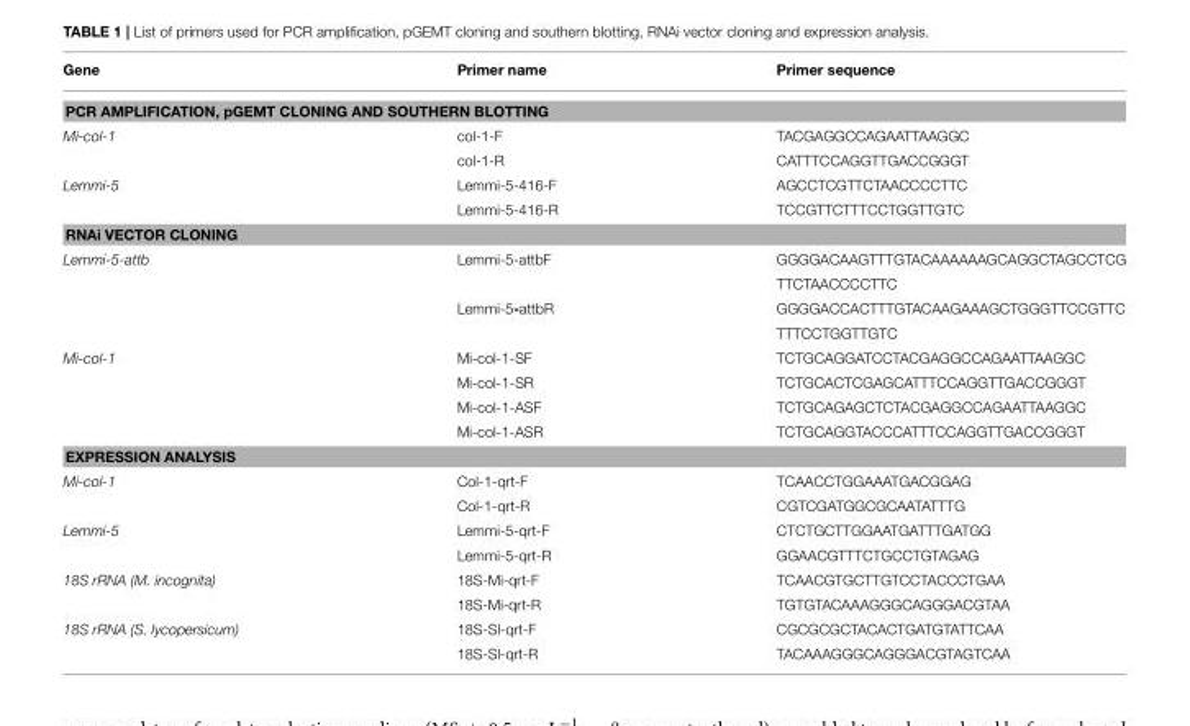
<table><thead><tr><td>Gene</td><td>Primer name</td><td>Primer sequence</td></tr></thead><tbody><tr><td colspan="3">PCR AMPLIFICATION, pGEMT CLONING AND SOUTHERN BLOTTING</td></tr><tr><td rowspan="2">Mi-col-1</td><td>col-1-F</td><td>TACGAGGCCAGAATTAAGGC</td></tr><tr><td>col-1-R</td><td>CATTTCCAGGTTGACCGGGT</td></tr><tr><td rowspan="2">Lemmi-5</td><td>Lemmi-5-416-F</td><td>AGCCTCGTTCTAACCCCTTC</td></tr><tr><td>Lemmi-5-416-R</td><td>TCCGTTCTTTCCTGGTTGTC</td></tr><tr><td colspan="3">RNAi VECTOR CLONING</td></tr><tr><td rowspan="4">Lemmi-5-attb</td><td>Lemmi-5-attbF</td><td>GGGGACAAGTTTGTACAAAAAAGCAGGCTAGCCTCG</td></tr><tr><td></td><td>TTCTAACCCCTTC</td></tr><tr><td>Lemmi-5-attbR</td><td>GGGGACCACTTTGTACAAGAAAGCTGGGTTCCGTTC</td></tr><tr><td></td><td>TTTCCTGGTTGTC</td></tr><tr><td rowspan="4">Mi-col-1</td><td>Mi-col-1-SF</td><td>TCTGCAGGATCCTACGAGGCCAGAATTAAGGC</td></tr><tr><td>Mi-col-1-SR</td><td>TCTGCACTCGAGCATTTCCAGGTTGACCGGGT</td></tr><tr><td>Mi-col-1-ASF</td><td>TCTGCAGAGCTCTACGAGGCCAGAATTAAGGC</td></tr><tr><td>Mi-col-1-ASR</td><td>TCTGCAGGTACCCATTTCCAGGTTGACCGGGT</td></tr><tr><td colspan="3">EXPRESSION ANALYSIS</td></tr><tr><td rowspan="2">Mi-col-1</td><td>Col-1-qrt-F</td><td>TCAACCTGGAAATGACGGAG</td></tr><tr><td>Col-1-qrt-R</td><td>CGTCGATGGCGCAATATTTG</td></tr><tr><td rowspan="2">Lemmi-5</td><td>Lemmi-5-qrt-F</td><td>CTCTGCTTGGAATGATTTGATGG</td></tr><tr><td>Lemmi-5-qrt-R</td><td>GGAACGTTTCTGCCTGTAGAG</td></tr><tr><td rowspan="2">18S rRNA (M. incognita)</td><td>18S-Mi-qrt-F</td><td>TCAACGTGCTTGTCCTACCCTGAA</td></tr><tr><td>18S-Mi-qrt-R</td><td>TGTGTACAAAGGGCAGGGACGTAA</td></tr><tr><td rowspan="2">18S rRNA (S. lycopersicum)</td><td>18S-Sl-qrt-F</td><td>CGCGCGCTACACTGATGTATTCAA</td></tr><tr><td>18S-Sl-qrt-R</td><td>TACAAAGGGCAGGGACGTAGTCAA</td></tr></tbody></table>